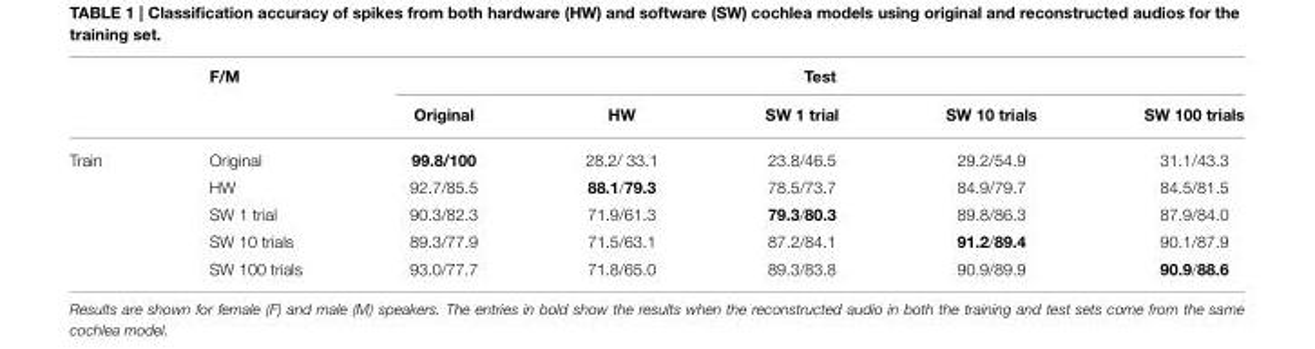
<table><thead><tr><td rowspan="2"></td><td rowspan="2">F/M</td><td colspan="5">Test</td></tr><tr><td>Original</td><td>HW</td><td>SW 1 trial</td><td>SW 10 trials</td><td>SW 100 trials</td></tr></thead><tbody><tr><td rowspan="5">Train</td><td>Original</td><td>99.8/100</td><td>28.2/ 33.1</td><td>23.8/46.5</td><td>29.2/54.9</td><td>31.1/43.3</td></tr><tr><td>HW</td><td>92.7/85.5</td><td>88.1/79.3</td><td>78.5/73.7</td><td>84.9/79.7</td><td>84.5/81.5</td></tr><tr><td>SW 1 trial</td><td>90.3/82.3</td><td>71.9/61.3</td><td>79.3/80.3</td><td>89.8/86.3</td><td>87.9/84.0</td></tr><tr><td>SW 10 trials</td><td>89.3/77.9</td><td>71.5/63.1</td><td>87.2/84.1</td><td>91.2/89.4</td><td>90.1/87.9</td></tr><tr><td>SW 100 trials</td><td>93.0/77.7</td><td>71.8/65.0</td><td>89.3/83.8</td><td>90.9/89.9</td><td>90.9/88.6</td></tr></tbody></table>